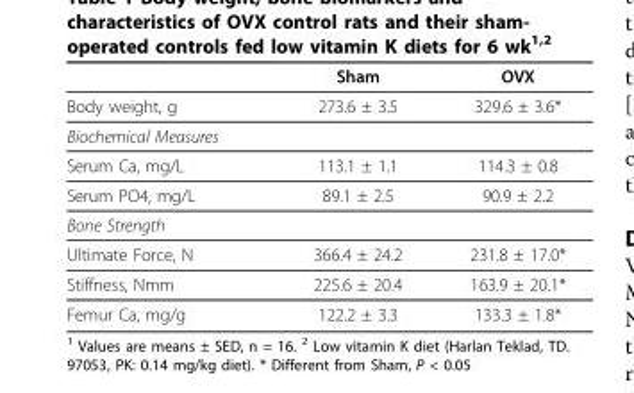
<table><thead><tr><td></td><td>Sham</td><td>OVX</td></tr></thead><tbody><tr><td>Body weight, g</td><td>273.6 ± 3.5</td><td>329.6 ± 3.6*</td></tr><tr><td colspan="3">Biochemical Measures</td></tr><tr><td>Serum Ca, mg/L</td><td>113.1 ± 1.1</td><td>114.3 ± 0.8</td></tr><tr><td>Serum PO4, mg/L</td><td>89.1 ± 2.5</td><td>90.9 ± 2.2</td></tr><tr><td colspan="3">Bone Strength</td></tr><tr><td>Ultimate Force, N</td><td>366.4 ± 24.2</td><td>231.8 ± 17.0*</td></tr><tr><td>Stiffness, Nmm</td><td>225.6 ± 20.4</td><td>163.9 ± 20.1*</td></tr><tr><td>Femur Ca, mg/g</td><td>122.2 ± 3.3</td><td>133.3 ± 1.8*</td></tr></tbody></table>